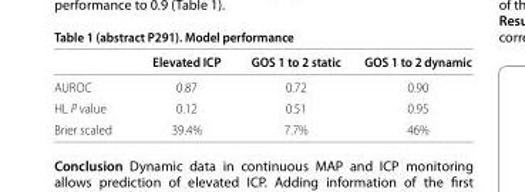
<table><thead><tr><td></td><td>Elevated ICP</td><td>GOS 1 to 2 static</td><td>GOS 1 to 2 dynamic</td></tr></thead><tbody><tr><td>AUROC</td><td>0.87</td><td>0.72</td><td>0.90</td></tr><tr><td>HL P value</td><td>0.12</td><td>0.51</td><td>0.95</td></tr><tr><td>Brier scaled</td><td>39.4%</td><td>7.7%</td><td>46%</td></tr></tbody></table>